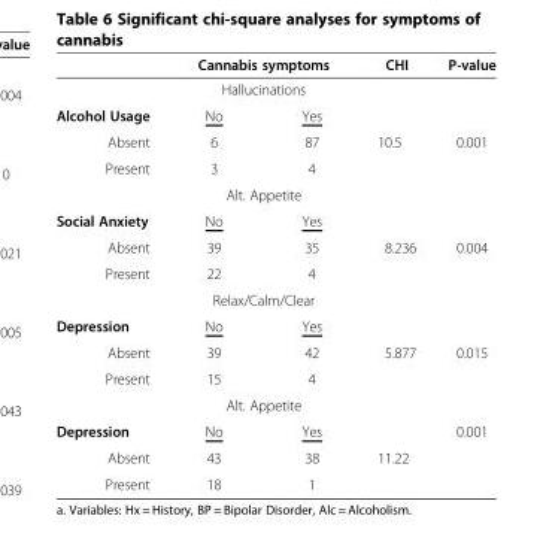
<table><thead><tr><td rowspan="3">Alcohol Usage</td><td rowspan="2" colspan="2">Cannabis symptoms Hallucinations</td><td rowspan="3">CHI</td><td rowspan="3">P-value</td></tr><tr></tr><tr><td>No</td><td>Yes</td></tr></thead><tbody><tr><td>Absent</td><td>6</td><td>87</td><td>10.5</td><td>0.001</td></tr><tr><td rowspan="2">Present</td><td>3</td><td>4</td><td></td><td></td></tr><tr><td colspan="2">Alt. Appetite</td><td></td><td></td></tr><tr><td>Social Anxiety</td><td>No</td><td>Yes</td><td></td><td></td></tr><tr><td>Absent</td><td>39</td><td>35</td><td>8.236</td><td>0.004</td></tr><tr><td rowspan="2">Present</td><td>22</td><td>4</td><td></td><td></td></tr><tr><td colspan="2">Relax/Calm/Clear</td><td></td><td></td></tr><tr><td>Depression</td><td>No</td><td>Yes</td><td></td><td></td></tr><tr><td>Absent</td><td>39</td><td>42</td><td>5.877</td><td>0.015</td></tr><tr><td rowspan="2">Present</td><td>15</td><td>4</td><td></td><td></td></tr><tr><td colspan="2">Alt. Appetite</td><td></td><td></td></tr><tr><td>Depression</td><td>No</td><td>Yes</td><td></td><td>0.001</td></tr><tr><td>Absent</td><td>43</td><td>38</td><td>11.22</td><td></td></tr><tr><td>Present</td><td>18</td><td>1</td><td></td><td></td></tr></tbody></table>